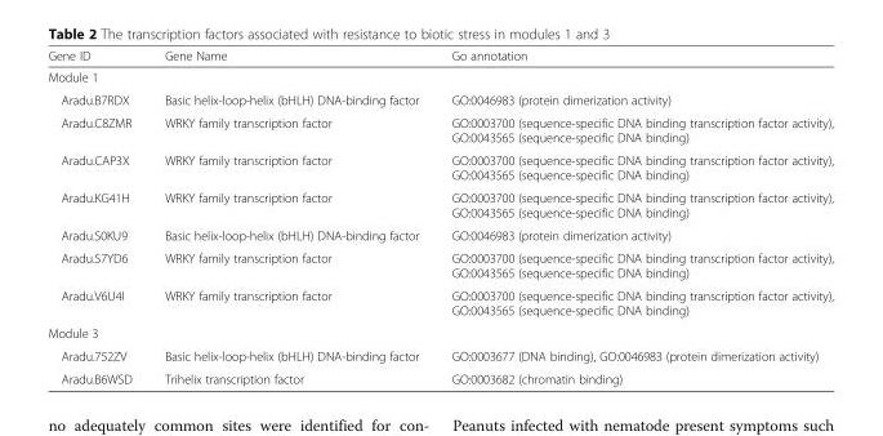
<table><thead><tr><td>Gene ID</td><td>Gene Name</td><td>Go annotation</td></tr></thead><tbody><tr><td colspan="3">Module 1</td></tr><tr><td>Aradu.B7RDX</td><td>Basic helix-loop-helix (bHLH) DNA-binding factor</td><td>GO:0046983 (protein dimerization activity)</td></tr><tr><td>Aradu.C8ZMR</td><td>WRKY family transcription factor</td><td>GO:0003700 (sequence-specific DNA binding transcription factor activity), GO:0043565 (sequence-specific DNA binding)</td></tr><tr><td>Aradu.CAP3X</td><td>WRKY family transcription factor</td><td>GO:0003700 (sequence-specific DNA binding transcription factor activity), GO:0043565 (sequence-specific DNA binding)</td></tr><tr><td>Aradu.KG41H</td><td>WRKY family transcription factor</td><td>GO:0003700 (sequence-specific DNA binding transcription factor activity), GO:0043565 (sequence-specific DNA binding)</td></tr><tr><td>Aradu.S0KU9</td><td>Basic helix-loop-helix (bHLH) DNA-binding factor</td><td>GO:0046983 (protein dimerization activity)</td></tr><tr><td>Aradu.S7YD6</td><td>WRKY family transcription factor</td><td>GO:0003700 (sequence-specific DNA binding transcription factor activity), GO:0043565 (sequence-specific DNA binding)</td></tr><tr><td>Aradu.V6U4I</td><td>WRKY family transcription factor</td><td>GO:0003700 (sequence-specific DNA binding transcription factor activity), GO:0043565 (sequence-specific DNA binding)</td></tr><tr><td colspan="3">Module 3</td></tr><tr><td>Aradu.752ZV</td><td>Basic helix-loop-helix (bHLH) DNA-binding factor</td><td>GO:0003677 (DNA binding), GO:0046983 (protein dimerization activity)</td></tr><tr><td>Aradu.B6WSD</td><td>Trihelix transcription factor</td><td>GO:0003682 (chromatin binding)</td></tr></tbody></table>